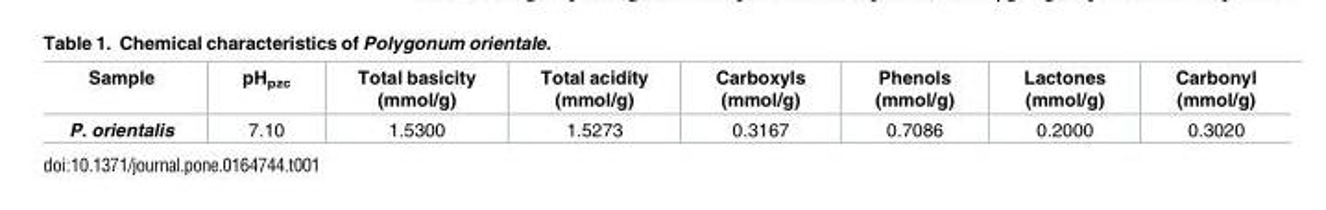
<table><thead><tr><td>Sample</td><td>pH<sub>pzc</sub></td><td>Total basicity (mmol/g)</td><td>Total acidity (mmol/g)</td><td>Carboxyls (mmol/g)</td><td>Phenols (mmol/g)</td><td>Lactones (mmol/g)</td><td>Carbonyl (mmol/g)</td></tr></thead><tbody><tr><td>P. orientalis</td><td>7.10</td><td>1.5300</td><td>1.5273</td><td>0.3167</td><td>0.7086</td><td>0.2000</td><td>0.3020</td></tr></tbody></table>